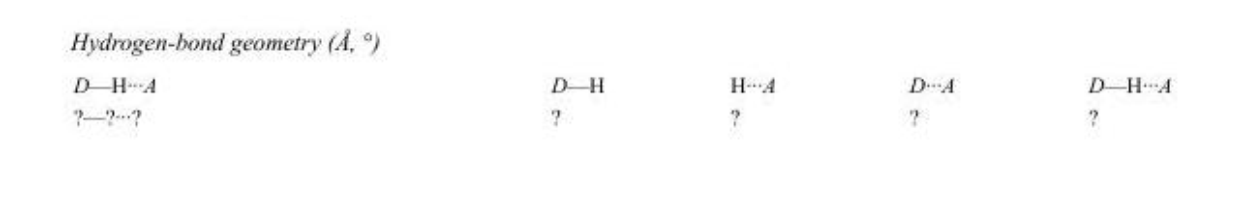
<table><tbody><tr><td>D—H···A</td><td>D—H</td><td>H···A</td><td>D···A</td><td>D—H···A</td></tr><tr><td>?—?···?</td><td>?</td><td>?</td><td>?</td><td>?</td></tr></tbody></table>